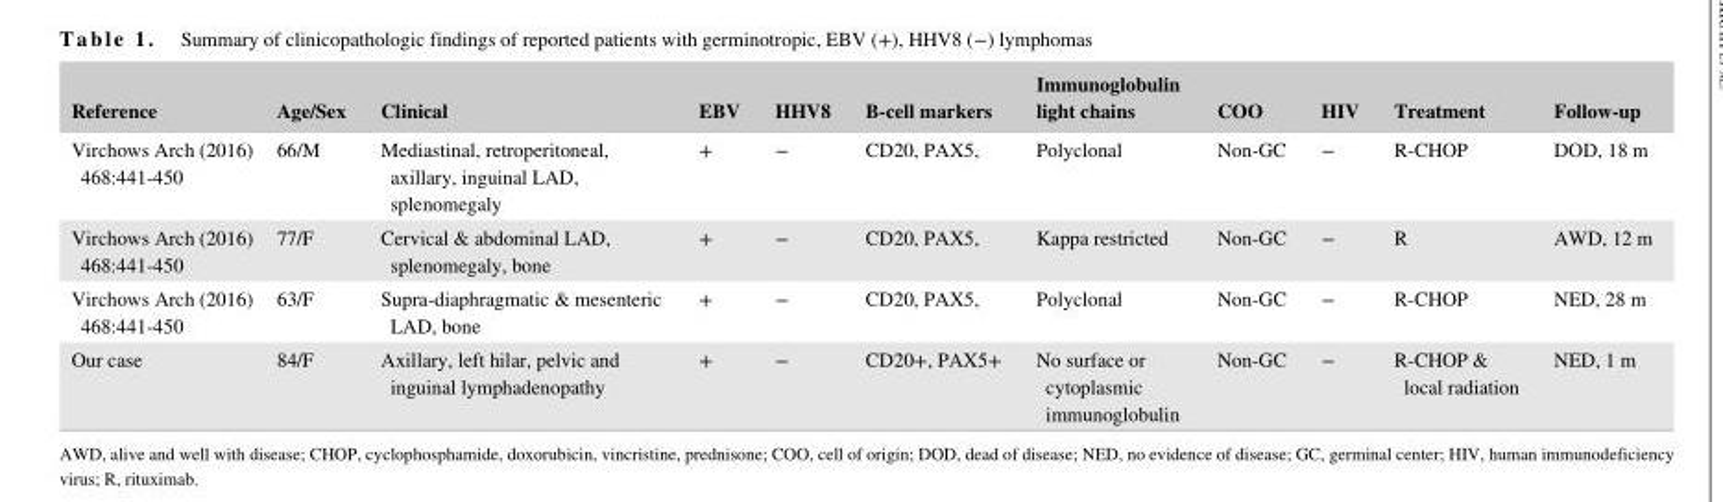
<table><thead><tr><td>Reference</td><td>Age/Sex</td><td>Clinical</td><td>EBV</td><td>HHV8</td><td>B- cell markers</td><td>Immunoglobulin light chains</td><td>COO</td><td>HIV</td><td>Treatment</td><td>Follow- up</td></tr></thead><tbody><tr><td>Virchows Arch (2016) 468:441- 450</td><td>66/M</td><td>Mediastinal, retroperitoneal, axillary, inguinal LAD, splenomegaly</td><td>+</td><td>−</td><td>CD20, PAX5,</td><td>Polyclonal</td><td>Non- GC</td><td>−</td><td>R- CHOP</td><td>DOD, 18 m</td></tr><tr><td>Virchows Arch (2016) 468:441- 450</td><td>77/F</td><td>Cervical &amp; abdominal LAD, splenomegaly, bone</td><td>+</td><td>−</td><td>CD20, PAX5,</td><td>Kappa restricted</td><td>Non- GC</td><td>−</td><td>R</td><td>AWD, 12 m</td></tr><tr><td>Virchows Arch (2016) 468:441- 450</td><td>63/F</td><td>Supra- diaphragmatic &amp; mesenteric LAD, bone</td><td>+</td><td>−</td><td>CD20, PAX5,</td><td>Polyclonal</td><td>Non- GC</td><td>−</td><td>R- CHOP</td><td>NED, 28 m</td></tr><tr><td>Our case</td><td>84/F</td><td>Axillary, left hilar, pelvic and inguinal lymphadenopathy</td><td>+</td><td>−</td><td>CD20+, PAX5+</td><td>No surface or cytoplasmic immunoglobulin</td><td>Non- GC</td><td>−</td><td>R- CHOP &amp; local radiation</td><td>NED, 1 m</td></tr></tbody></table>